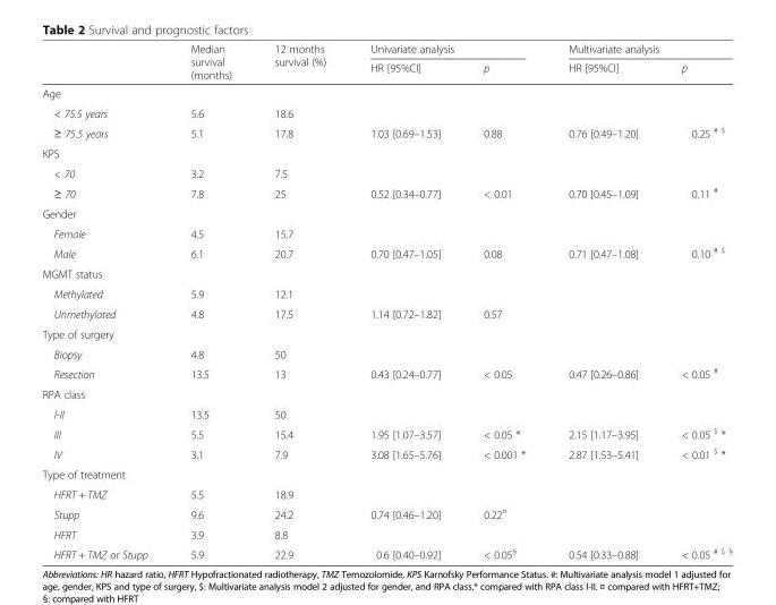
<table><thead><tr><td rowspan="2"></td><td rowspan="2">Median survival (months)</td><td rowspan="2">12 months survival (%)</td><td colspan="2">Univariate analysis</td><td colspan="2">Multivariate analysis</td></tr><tr><td>HR [95%CI]</td><td>p</td><td>HR [95%CI]</td><td>p</td></tr></thead><tbody><tr><td colspan="7">Age</td></tr><tr><td>&lt; 75.5 years</td><td>5.6</td><td>18.6</td><td></td><td></td><td></td><td></td></tr><tr><td>≥ 75.5 years</td><td>5.1</td><td>17.8</td><td>1.03 [0.69–1.53]</td><td>0.88</td><td>0.76 [0.49–1.20]</td><td>0.25 <sup># $</sup></td></tr><tr><td colspan="7">KPS</td></tr><tr><td>&lt; 70</td><td>3.2</td><td>7.5</td><td></td><td></td><td></td><td></td></tr><tr><td>≥ 70</td><td>7.8</td><td>25</td><td>0.52 [0.34–0.77]</td><td>&lt; 0.01</td><td>0.70 [0.45–1.09]</td><td>0.11 <sup>#</sup></td></tr><tr><td colspan="7">Gender</td></tr><tr><td>Female</td><td>4.5</td><td>15.7</td><td></td><td></td><td></td><td></td></tr><tr><td>Male</td><td>6.1</td><td>20.7</td><td>0.70 [0.47–1.05]</td><td>0.08</td><td>0.71 [0.47–1.08]</td><td>0.10 <sup># $</sup></td></tr><tr><td colspan="7">MGMT status</td></tr><tr><td>Methylated</td><td>5.9</td><td>12.1</td><td></td><td></td><td></td><td></td></tr><tr><td>Unmethylated</td><td>4.8</td><td>17.5</td><td>1.14 [0.72–1.82]</td><td>0.57</td><td></td><td></td></tr><tr><td colspan="7">Type of surgery</td></tr><tr><td>Biopsy</td><td>4.8</td><td>50</td><td></td><td></td><td></td><td></td></tr><tr><td>Resection</td><td>13.5</td><td>13</td><td>0.43 [0.24–0.77]</td><td>&lt; 0.05</td><td>0.47 [0.26–0.86]</td><td>&lt; 0.05 <sup>#</sup></td></tr><tr><td colspan="7">RPA class</td></tr><tr><td>I-II</td><td>13.5</td><td>50</td><td></td><td></td><td></td><td></td></tr><tr><td>III</td><td>5.5</td><td>15.4</td><td>1.95 [1.07–3.57]</td><td>&lt; 0.05 *</td><td>2.15 [1.17–3.95]</td><td>&lt; 0.05 <sup>$</sup> *</td></tr><tr><td>IV</td><td>3.1</td><td>7.9</td><td>3.08 [1.65–5.76]</td><td>&lt; 0.001 *</td><td>2.87 [1.53–5.41]</td><td>&lt; 0.01 <sup>$</sup> *</td></tr><tr><td colspan="7">Type of treatment</td></tr><tr><td>HFRT + TMZ</td><td>5.5</td><td>18.9</td><td></td><td></td><td></td><td></td></tr><tr><td>Stupp</td><td>9.6</td><td>24.2</td><td>0.74 [0.46–1.20]</td><td>0.22<sup>¤</sup></td><td></td><td></td></tr><tr><td>HFRT</td><td>3.9</td><td>8.8</td><td></td><td></td><td></td><td></td></tr><tr><td>HFRT + TMZ or Stupp</td><td>5.9</td><td>22.9</td><td>0.6 [0.40–0.92]</td><td>&lt; 0.05<sup>§</sup></td><td>0.54 [0.33–0.88]</td><td>&lt; 0.05 <sup># $ §</sup></td></tr></tbody></table>